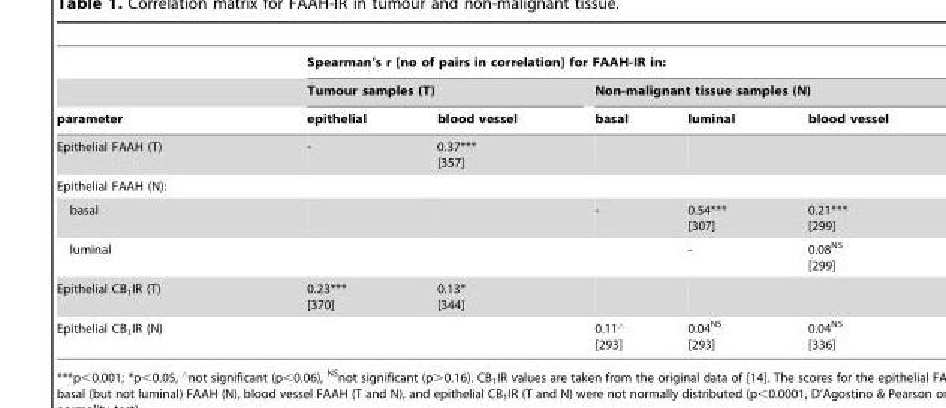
<table><thead><tr><td rowspan="3">parameter</td><td colspan="5">Spearman’s r [no of pairs in correlation] for FAAH-IR in:</td></tr><tr><td colspan="2">Tumour samples (T)</td><td colspan="3">Non-malignant tissue samples (N)</td></tr><tr><td>epithelial</td><td>blood vessel</td><td>basal</td><td>luminal</td><td>blood vessel</td></tr></thead><tbody><tr><td>Epithelial FAAH (T)</td><td>-</td><td>0.37*** [357]</td><td></td><td></td><td></td></tr><tr><td colspan="6">Epithelial FAAH (N):</td></tr><tr><td>basal</td><td></td><td></td><td>-</td><td>0.54*** [307]</td><td>0.21*** [299]</td></tr><tr><td>luminal</td><td></td><td></td><td></td><td>-</td><td>0.08<sup>NS</sup> [299]</td></tr><tr><td>Epithelial CB<sub>1</sub>IR (T)</td><td>0.23*** [370]</td><td>0.13* [344]</td><td></td><td></td><td></td></tr><tr><td>Epithelial CB<sub>1</sub>IR (N)</td><td></td><td></td><td>0.11‘ [293]</td><td>0.04<sup>NS</sup> [293]</td><td>0.04<sup>NS</sup> [336]</td></tr></tbody></table>